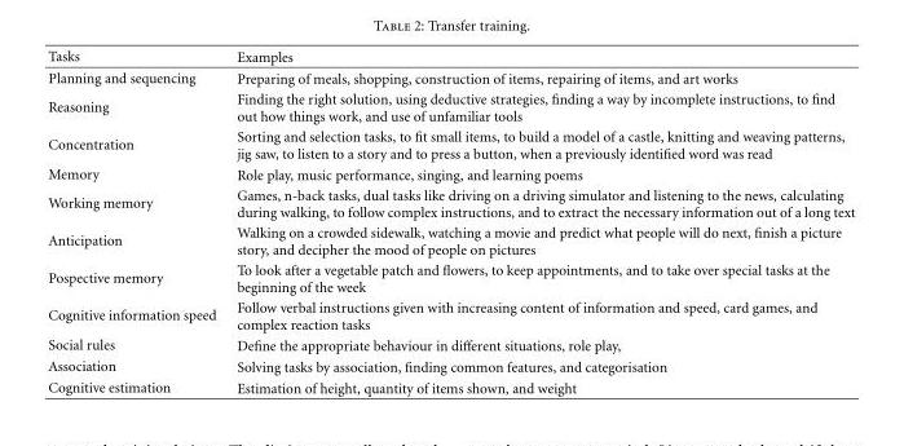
<table><thead><tr><td>Tasks</td><td>Examples</td></tr></thead><tbody><tr><td>Planning and sequencing</td><td>Preparing of meals, shopping, construction of items, repairing of items, and art works</td></tr><tr><td>Reasoning</td><td>Finding the right solution, using deductive strategies, finding a way by incomplete instructions, to find out how things work, and use of unfamiliar tools</td></tr><tr><td>Concentration</td><td>Sorting and selection tasks, to fit small items, to build a model of a castle, knitting and weaving patterns, jig saw, to listen to a story and to press a button, when a previously identified word was read</td></tr><tr><td>Memory</td><td>Role play, music performance, singing, and learning poems</td></tr><tr><td>Working memory</td><td>Games, n-back tasks, dual tasks like driving on a driving simulator and listening to the news, calculating during walking, to follow complex instructions, and to extract the necessary information out of a long text</td></tr><tr><td>Anticipation</td><td>Walking on a crowded sidewalk, watching a movie and predict what people will do next, finish a picture story, and decipher the mood of people on pictures</td></tr><tr><td>Pospective memory</td><td>To look after a vegetable patch and flowers, to keep appointments, and to take over special tasks at the beginning of the week</td></tr><tr><td>Cognitive information speed</td><td>Follow verbal instructions given with increasing content of information and speed, card games, and complex reaction tasks</td></tr><tr><td>Social rules</td><td>Define the appropriate behaviour in different situations, role play,</td></tr><tr><td>Association</td><td>Solving tasks by association, finding common features, and categorisation</td></tr><tr><td>Cognitive estimation</td><td>Estimation of height, quantity of items shown, and weight</td></tr></tbody></table>